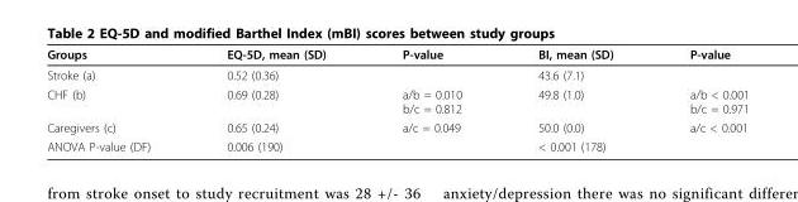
<table><thead><tr><td>Groups</td><td>EQ-5D, mean (SD)</td><td>P-value</td><td>BI, mean (SD)</td><td>P-value</td></tr></thead><tbody><tr><td>Stroke (a)</td><td>0.52 (0.36)</td><td></td><td>43.6 (7.1)</td><td></td></tr><tr><td>CHF (b)</td><td>0.69 (0.28)</td><td>a/b = 0.010 b/c = 0.812</td><td>49.8 (1.0)</td><td>a/b &lt; 0.001 b/c = 0.971</td></tr><tr><td>Caregivers (c)</td><td>0.65 (0.24)</td><td>a/c = 0.049</td><td>50.0 (0.0)</td><td>a/c &lt; 0.001</td></tr><tr><td>ANOVA P-value (DF)</td><td>0.006 (190)</td><td></td><td>&lt; 0.001 (178)</td><td></td></tr></tbody></table>